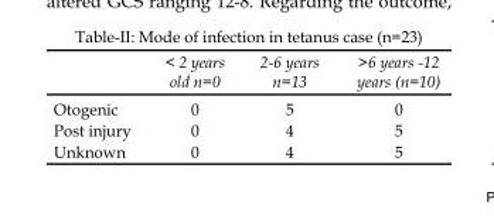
<table><thead><tr><td></td><td>&lt; 2 years old n=0</td><td>2-6 years n=13</td><td>&gt;6 years -12 years (n=10)</td></tr></thead><tbody><tr><td>Otogenic</td><td>0</td><td>5</td><td>0</td></tr><tr><td>Post injury</td><td>0</td><td>4</td><td>5</td></tr><tr><td>Unknown</td><td>0</td><td>4</td><td>5</td></tr></tbody></table>